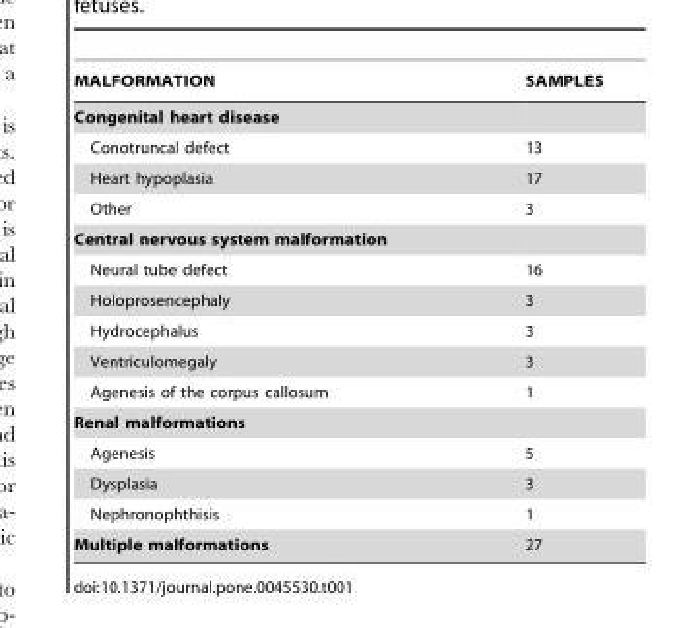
<table><thead><tr><td>MALFORMATION</td><td>SAMPLES</td></tr></thead><tbody><tr><td colspan="2">Congenital heart disease</td></tr><tr><td>Conotruncal defect</td><td>13</td></tr><tr><td>Heart hypoplasia</td><td>17</td></tr><tr><td>Other</td><td>3</td></tr><tr><td colspan="2">Central nervous system malformation</td></tr><tr><td>Neural tube defect</td><td>16</td></tr><tr><td>Holoprosencephaly</td><td>3</td></tr><tr><td>Hydrocephalus</td><td>3</td></tr><tr><td>Ventriculomegaly</td><td>3</td></tr><tr><td>Agenesis of the corpus callosum</td><td>1</td></tr><tr><td colspan="2">Renal malformations</td></tr><tr><td>Agenesis</td><td>5</td></tr><tr><td>Dysplasia</td><td>3</td></tr><tr><td>Nephronophthisis</td><td>1</td></tr><tr><td>Multiple malformations</td><td>27</td></tr></tbody></table>